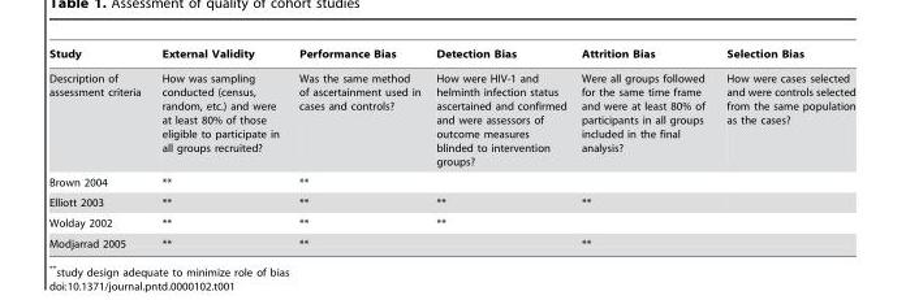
<table><thead><tr><td>Study</td><td>External Validity</td><td>Performance Bias</td><td>Detection Bias</td><td>Attrition Bias</td><td>Selection Bias</td></tr></thead><tbody><tr><td>Description of assessment criteria</td><td>How was sampling conducted (census, random, etc.) and were at least 80% of those eligible to participate in all groups recruited?</td><td>Was the same method of ascertainment used in cases and controls?</td><td>How were HIV-1 and helminth infection status ascertained and confirmed and were assessors of outcome measures blinded to intervention groups?</td><td>Were all groups followed for the same time frame and were at least 80% of participants in all groups included in the final analysis?</td><td>How were cases selected and were controls selected from the same population as the cases?</td></tr><tr><td>Brown 2004</td><td>**</td><td>**</td><td></td><td></td><td></td></tr><tr><td>Elliott 2003</td><td>**</td><td>**</td><td>**</td><td>**</td><td></td></tr><tr><td>Wolday 2002</td><td>**</td><td>**</td><td>**</td><td></td><td></td></tr><tr><td>Modjarrad 2005</td><td>**</td><td>**</td><td></td><td>**</td><td></td></tr></tbody></table>